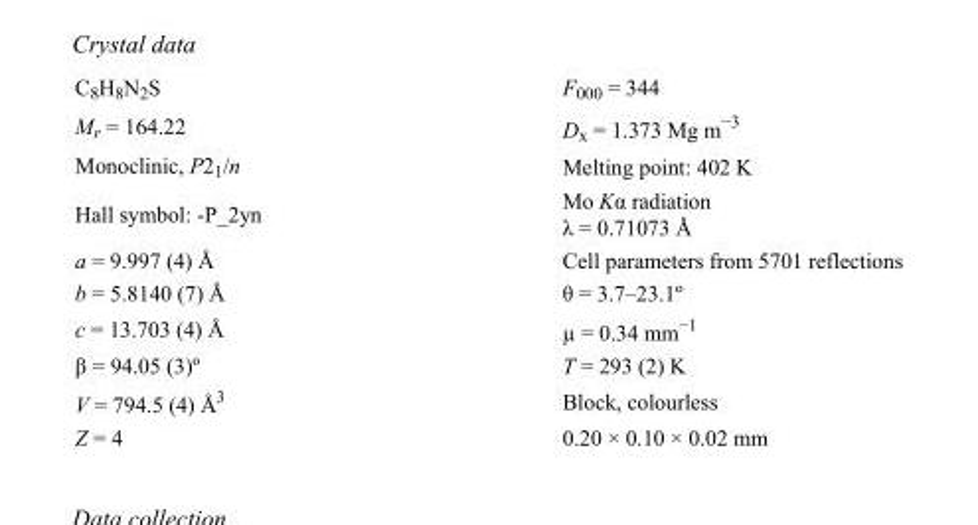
<table><tbody><tr><td>C<sub>8</sub>H<sub>8</sub>N<sub>2</sub>S</td><td>F<sub>000</sub> = 344</td></tr><tr><td>M<sub>r</sub> = 164.22</td><td>D<sub>x</sub> = 1.373 Mg m<sup>−3</sup></td></tr><tr><td>Monoclinic, P2<sub>1</sub>/n</td><td>Melting point: 402 K</td></tr><tr><td>Hall symbol: -P_2yn</td><td>Mo Kα radiation λ = 0.71073 Å</td></tr><tr><td>a = 9.997 (4) Å</td><td>Cell parameters from 5701 reflections</td></tr><tr><td>b = 5.8140 (7) Å</td><td>θ = 3.7–23.1º</td></tr><tr><td>c = 13.703 (4) Å</td><td>µ = 0.34 mm<sup>−1</sup></td></tr><tr><td>β = 94.05 (3)º</td><td>T = 293 (2) K</td></tr><tr><td>V = 794.5 (4) Å<sup>3</sup></td><td>Block, colourless</td></tr><tr><td>Z = 4</td><td>0.20 × 0.10 × 0.02 mm</td></tr></tbody></table>